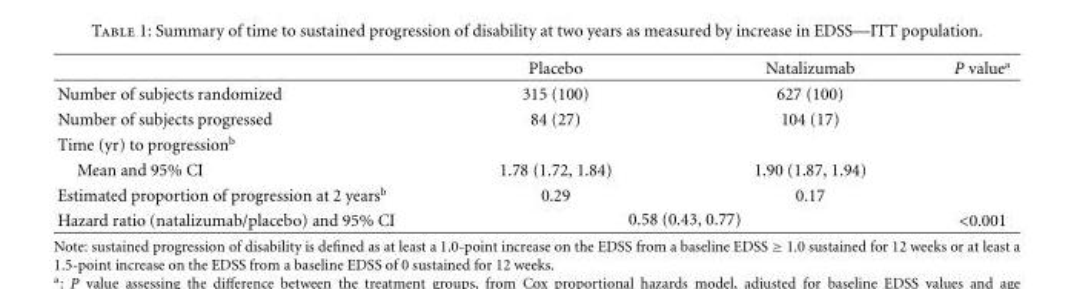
<table><thead><tr><td></td><td>Placebo</td><td>Natalizumab</td><td>P value<sup>a</sup></td></tr></thead><tbody><tr><td>Number of subjects randomized</td><td>315 (100)</td><td>627 (100)</td><td></td></tr><tr><td>Number of subjects progressed</td><td>84 (27)</td><td>104 (17)</td><td></td></tr><tr><td colspan="4">Time (yr) to progression<sup>b</sup></td></tr><tr><td>Mean and 95% CI</td><td>1.78 (1.72, 1.84)</td><td>1.90 (1.87, 1.94)</td><td></td></tr><tr><td>Estimated proportion of progression at 2 years<sup>b</sup></td><td>0.29</td><td>0.17</td><td></td></tr><tr><td>Hazard ratio (natalizumab/placebo) and 95% CI</td><td colspan="2">0.58 (0.43, 0.77)</td><td>&lt;0.001</td></tr></tbody></table>